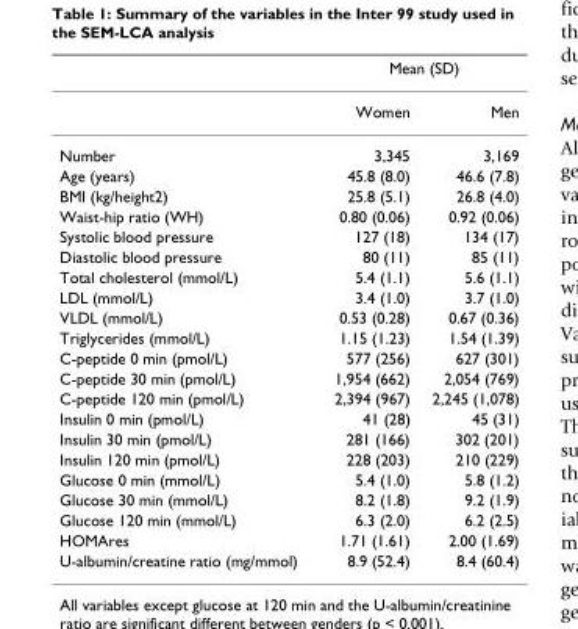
<table><thead><tr><td rowspan="2"></td><td colspan="2">Mean (SD)</td></tr><tr><td>Women</td><td>Men</td></tr></thead><tbody><tr><td>Number</td><td>3,345</td><td>3,169</td></tr><tr><td>Age (years)</td><td>45.8 (8.0)</td><td>46.6 (7.8)</td></tr><tr><td>BMI (kg/height2)</td><td>25.8 (5.1)</td><td>26.8 (4.0)</td></tr><tr><td>Waist-hip ratio (WH)</td><td>0.80 (0.06)</td><td>0.92 (0.06)</td></tr><tr><td>Systolic blood pressure</td><td>127 (18)</td><td>134 (17)</td></tr><tr><td>Diastolic blood pressure</td><td>80 (11)</td><td>85 (11)</td></tr><tr><td>Total cholesterol (mmol/L)</td><td>5.4 (1.1)</td><td>5.6 (1.1)</td></tr><tr><td>LDL (mmol/L)</td><td>3.4 (1.0)</td><td>3.7 (1.0)</td></tr><tr><td>VLDL (mmol/L)</td><td>0.53 (0.28)</td><td>0.67 (0.36)</td></tr><tr><td>Triglycerides (mmol/L)</td><td>1.15 (1.23)</td><td>1.54 (1.39)</td></tr><tr><td>C-peptide 0 min (pmol/L)</td><td>577 (256)</td><td>627 (301)</td></tr><tr><td>C-peptide 30 min (pmol/L)</td><td>1,954 (662)</td><td>2,054 (769)</td></tr><tr><td>C-peptide 120 min (pmol/L)</td><td>2,394 (967)</td><td>2,245 (1,078)</td></tr><tr><td>Insulin 0 min (pmol/L)</td><td>41 (28)</td><td>45 (31)</td></tr><tr><td>Insulin 30 min (pmol/L)</td><td>281 (166)</td><td>302 (201)</td></tr><tr><td>Insulin 120 min (pmol/L)</td><td>228 (203)</td><td>210 (229)</td></tr><tr><td>Glucose 0 min (mmol/L)</td><td>5.4 (1.0)</td><td>5.8 (1.2)</td></tr><tr><td>Glucose 30 min (mmol/L)</td><td>8.2 (1.8)</td><td>9.2 (1.9)</td></tr><tr><td>Glucose 120 min (mmol/L)</td><td>6.3 (2.0)</td><td>6.2 (2.5)</td></tr><tr><td>HOMAres</td><td>1.71 (1.61)</td><td>2.00 (1.69)</td></tr><tr><td>U-albumin/creatine ratio (mg/mmol)</td><td>8.9 (52.4)</td><td>8.4 (60.4)</td></tr></tbody></table>